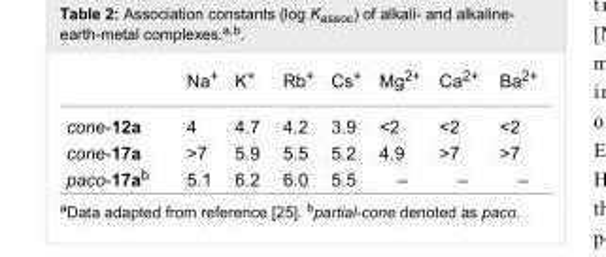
<table><thead><tr><td></td><td>Na<sup>+</sup></td><td>K<sup>+</sup></td><td>Rb<sup>+</sup></td><td>Cs<sup>+</sup></td><td>Mg<sup>2+</sup></td><td>Ca<sup>2+</sup></td><td>Ba<sup>2+</sup></td></tr></thead><tbody><tr><td>cone-12a</td><td>4</td><td>4.7</td><td>4.2</td><td>3.9</td><td>&lt;2</td><td>&lt;2</td><td>&lt;2</td></tr><tr><td>cone-17a</td><td>&gt;7</td><td>5.9</td><td>5.5</td><td>5.2</td><td>4.9</td><td>&gt;7</td><td>&gt;7</td></tr><tr><td>paco-17a<sup>b</sup></td><td>5.1</td><td>6.2</td><td>6.0</td><td>5.5</td><td>–</td><td>–</td><td>–</td></tr></tbody></table>